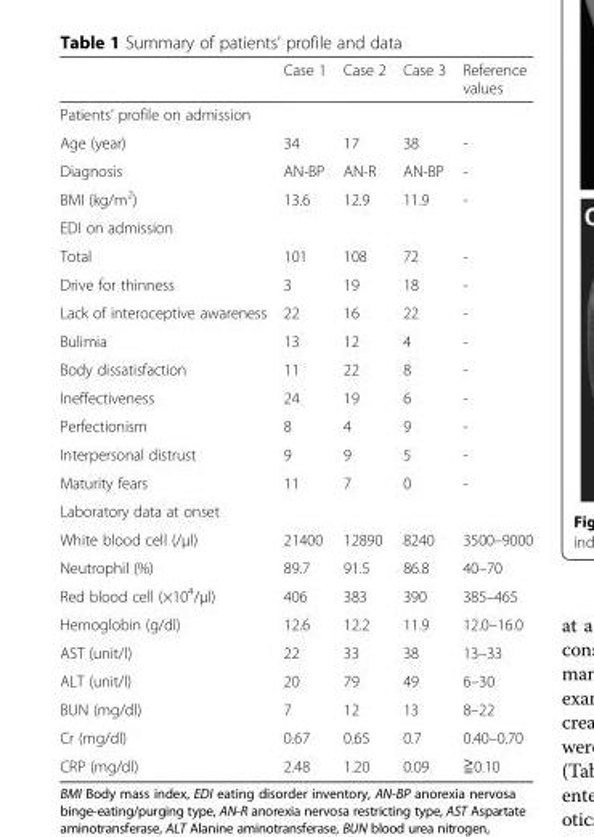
<table><thead><tr><td></td><td>Case 1</td><td>Case 2</td><td>Case 3</td><td>Reference values</td></tr></thead><tbody><tr><td colspan="5">Patients’ profile on admission</td></tr><tr><td>Age (year)</td><td>34</td><td>17</td><td>38</td><td>-</td></tr><tr><td>Diagnosis</td><td>AN-BP</td><td>AN-R</td><td>AN-BP</td><td>-</td></tr><tr><td>BMI (kg/m<sup>2</sup>)</td><td>13.6</td><td>12.9</td><td>11.9</td><td>-</td></tr><tr><td colspan="5">EDI on admission</td></tr><tr><td>Total</td><td>101</td><td>108</td><td>72</td><td>-</td></tr><tr><td>Drive for thinness</td><td>3</td><td>19</td><td>18</td><td>-</td></tr><tr><td>Lack of interoceptive awareness</td><td>22</td><td>16</td><td>22</td><td>-</td></tr><tr><td>Bulimia</td><td>13</td><td>12</td><td>4</td><td>-</td></tr><tr><td>Body dissatisfaction</td><td>11</td><td>22</td><td>8</td><td>-</td></tr><tr><td>Ineffectiveness</td><td>24</td><td>19</td><td>6</td><td>-</td></tr><tr><td>Perfectionism</td><td>8</td><td>4</td><td>9</td><td>-</td></tr><tr><td>Interpersonal distrust</td><td>9</td><td>9</td><td>5</td><td>-</td></tr><tr><td>Maturity fears</td><td>11</td><td>7</td><td>0</td><td>-</td></tr><tr><td colspan="5">Laboratory data at onset</td></tr><tr><td>White blood cell (/μl)</td><td>21400</td><td>12890</td><td>8240</td><td>3500–9000</td></tr><tr><td>Neutrophil (%)</td><td>89.7</td><td>91.5</td><td>86.8</td><td>40–70</td></tr><tr><td>Red blood cell (×10<sup>4</sup>/μl)</td><td>406</td><td>383</td><td>390</td><td>385–465</td></tr><tr><td>Hemoglobin (g/dl)</td><td>12.6</td><td>12.2</td><td>11.9</td><td>12.0–16.0</td></tr><tr><td>AST (unit/l)</td><td>22</td><td>33</td><td>38</td><td>13–33</td></tr><tr><td>ALT (unit/l)</td><td>20</td><td>79</td><td>49</td><td>6–30</td></tr><tr><td>BUN (mg/dl)</td><td>7</td><td>12</td><td>13</td><td>8–22</td></tr><tr><td>Cr (mg/dl)</td><td>0.67</td><td>0.65</td><td>0.7</td><td>0.40–0.70</td></tr><tr><td>CRP (mg/dl)</td><td>2.48</td><td>1.20</td><td>0.09</td><td>≧0.10</td></tr></tbody></table>